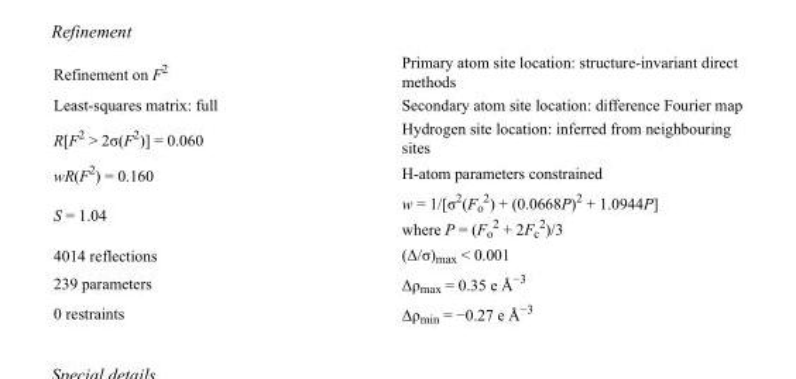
<table><tbody><tr><td>Refinement on F<sup>2</sup></td><td>Primary atom site location: structure-invariant direct methods</td></tr><tr><td>Least-squares matrix: full</td><td>Secondary atom site location: difference Fourier map</td></tr><tr><td>R[F<sup>2</sup> &gt; 2σ(F<sup>2</sup>)] = 0.060</td><td>Hydrogen site location: inferred from neighbouring sites</td></tr><tr><td>wR(F<sup>2</sup>) = 0.160</td><td>H-atom parameters constrained</td></tr><tr><td>S = 1.04</td><td>w = 1/[σ<sup>2</sup>(F<sub>o</sub> <sup>2</sup>) + (0.0668P)<sup>2</sup> + 1.0944P] where P = (F<sub>o</sub> <sup>2</sup> + 2F<sub>c</sub> <sup>2</sup>)/3</td></tr><tr><td>4014 reflections</td><td>(Δ/σ)<sub>max</sub> &lt; 0.001</td></tr><tr><td>239 parameters</td><td>Δρ<sub>max</sub> = 0.35 e Å<sup>−3</sup></td></tr><tr><td>0 restraints</td><td>Δρ<sub>min</sub> = −0.27 e Å<sup>−3</sup></td></tr></tbody></table>